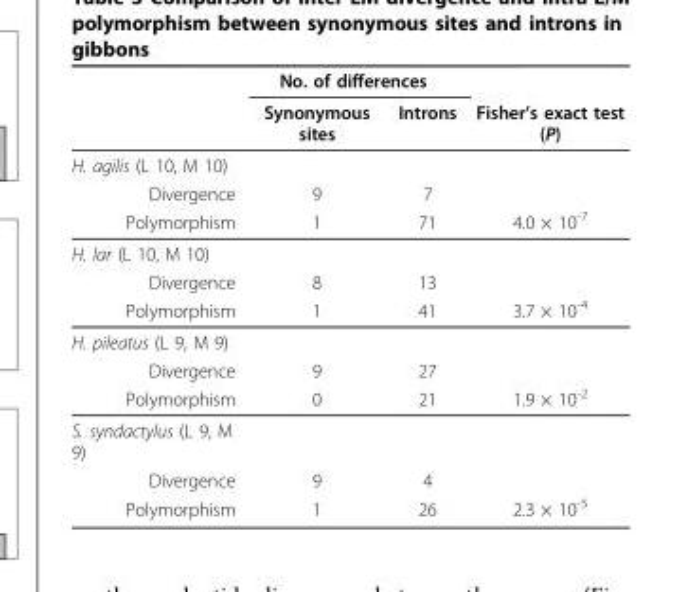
<table><thead><tr><td rowspan="2"></td><td colspan="2">No. of differences</td><td rowspan="2">Fisher’s exact test (P)</td></tr><tr><td>Synonymous sites</td><td>Introns</td></tr></thead><tbody><tr><td colspan="4">H. agilis (L 10, M 10)</td></tr><tr><td>Divergence</td><td>9</td><td>7</td><td></td></tr><tr><td>Polymorphism</td><td>1</td><td>71</td><td>4.0 × 10<sup>-7</sup></td></tr><tr><td colspan="4">H. lar (L 10, M 10)</td></tr><tr><td>Divergence</td><td>8</td><td>13</td><td></td></tr><tr><td>Polymorphism</td><td>1</td><td>41</td><td>3.7 × 10<sup>-4</sup></td></tr><tr><td colspan="4">H. pileatus (L 9, M 9)</td></tr><tr><td>Divergence</td><td>9</td><td>27</td><td></td></tr><tr><td>Polymorphism</td><td>0</td><td>21</td><td>1.9 × 10<sup>-2</sup></td></tr><tr><td colspan="4">S. syndactylus (L 9, M 9)</td></tr><tr><td>Divergence</td><td>9</td><td>4</td><td></td></tr><tr><td>Polymorphism</td><td>1</td><td>26</td><td>2.3 × 10<sup>-5</sup></td></tr></tbody></table>